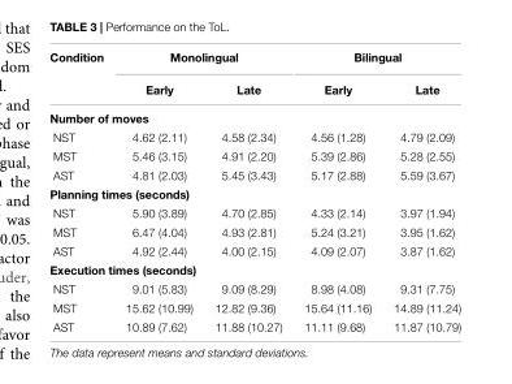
<table><thead><tr><td rowspan="2">Condition</td><td colspan="2">Monolingual</td><td colspan="2">Bilingual</td></tr><tr><td>Early</td><td>Late</td><td>Early</td><td>Late</td></tr></thead><tbody><tr><td colspan="5">Number of moves</td></tr><tr><td>NST</td><td>4.62 (2.11)</td><td>4.58 (2.34)</td><td>4.56 (1.28)</td><td>4.79 (2.09)</td></tr><tr><td>MST</td><td>5.46 (3.15)</td><td>4.91 (2.20)</td><td>5.39 (2.86)</td><td>5.28 (2.55)</td></tr><tr><td>AST</td><td>4.81 (2.03)</td><td>5.45 (3.43)</td><td>5.17 (2.88)</td><td>5.59 (3.67)</td></tr><tr><td colspan="5">Planning times (seconds)</td></tr><tr><td>NST</td><td>5.90 (3.89)</td><td>4.70 (2.85)</td><td>4.33 (2.14)</td><td>3.97 (1.94)</td></tr><tr><td>MST</td><td>6.47 (4.04)</td><td>4.93 (2.81)</td><td>5.24 (3.21)</td><td>3.95 (1.62)</td></tr><tr><td>AST</td><td>4.92 (2.44)</td><td>4.00 (2.15)</td><td>4.09 (2.07)</td><td>3.87 (1.62)</td></tr><tr><td colspan="5">Execution times (seconds)</td></tr><tr><td>NST</td><td>9.01 (5.83)</td><td>9.09 (8.29)</td><td>8.98 (4.08)</td><td>9.31 (7.75)</td></tr><tr><td>MST</td><td>15.62 (10.99)</td><td>12.82 (9.36)</td><td>15.64 (11.16)</td><td>14.89 (11.24)</td></tr><tr><td>AST</td><td>10.89 (7.62)</td><td>11.88 (10.27)</td><td>11.11 (9.68)</td><td>11.87 (10.79)</td></tr></tbody></table>